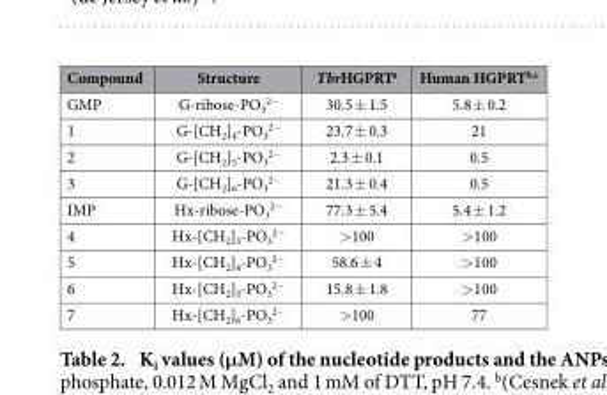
<table><thead><tr><td>Compound</td><td>Structure</td><td>TbrHGPRT<sup>a</sup></td><td>Human HGPRT<sup>b</sup>,<sup>c</sup></td></tr></thead><tbody><tr><td>GMP</td><td>G-ribose-PO<sub>3</sub> <sup>2−</sup></td><td>30.5 ± 1.5</td><td>5.8 ± 0.2</td></tr><tr><td>1</td><td>G-[CH<sub>2</sub>]<sub>4</sub>-PO<sub>3</sub> <sup>2−</sup></td><td>23.7 ± 0.3</td><td>21</td></tr><tr><td>2</td><td>G-[CH<sub>2</sub>]<sub>5</sub>-PO<sub>3</sub> <sup>2−</sup></td><td>2.3 ± 0.1</td><td>0.5</td></tr><tr><td>3</td><td>G-[CH<sub>2</sub>]<sub>6</sub>-PO<sub>3</sub> <sup>2−</sup></td><td>21.3 ± 0.4</td><td>0.5</td></tr><tr><td>IMP</td><td>Hx-ribose-PO<sub>3</sub> <sup>2−</sup></td><td>77.3 ± 5.4</td><td>5.4 ± 1.2</td></tr><tr><td>4</td><td>Hx-[CH<sub>2</sub>]<sub>3</sub>-PO<sub>3</sub> <sup>2−</sup></td><td>&gt; 100</td><td>&gt; 100</td></tr><tr><td>5</td><td>Hx-[CH<sub>2</sub>]<sub>4</sub>-PO<sub>3</sub> <sup>2−</sup></td><td>58.6 ± 4</td><td>&gt; 100</td></tr><tr><td>6</td><td>Hx-[CH<sub>2</sub>]<sub>5</sub>-PO<sub>3</sub> <sup>2−</sup></td><td>15.8 ± 1.8</td><td>&gt; 100</td></tr><tr><td>7</td><td>Hx-[CH<sub>2</sub>]<sub>6</sub>-PO<sub>3</sub> <sup>2−</sup></td><td>&gt; 100</td><td>77</td></tr></tbody></table>